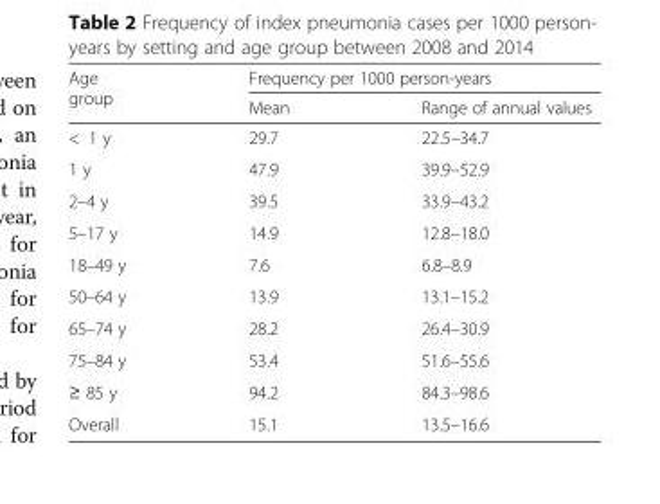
<table><thead><tr><td rowspan="2">Age group</td><td colspan="2">Frequency per 1000 person-years</td></tr><tr><td>Mean</td><td>Range of annual values</td></tr></thead><tbody><tr><td>&lt; 1 y</td><td>29.7</td><td>22.5–34.7</td></tr><tr><td>1 y</td><td>47.9</td><td>39.9–52.9</td></tr><tr><td>2–4 y</td><td>39.5</td><td>33.9–43.2</td></tr><tr><td>5–17 y</td><td>14.9</td><td>12.8–18.0</td></tr><tr><td>18–49 y</td><td>7.6</td><td>6.8–8.9</td></tr><tr><td>50–64 y</td><td>13.9</td><td>13.1–15.2</td></tr><tr><td>65–74 y</td><td>28.2</td><td>26.4–30.9</td></tr><tr><td>75–84 y</td><td>53.4</td><td>51.6–55.6</td></tr><tr><td>≥ 85 y</td><td>94.2</td><td>84.3–98.6</td></tr><tr><td>Overall</td><td>15.1</td><td>13.5–16.6</td></tr></tbody></table>